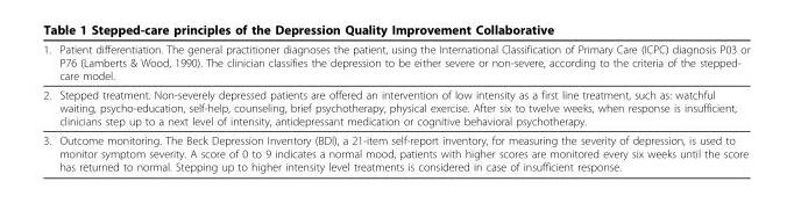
<table><thead><tr><td>1.</td><td>Patient differentiation. The general practitioner diagnoses the patient, using the International Classification of Primary Care (ICPC) diagnosis P03 or P76 (Lamberts &amp; Wood, 1990). The clinician classifies the depression to be either severe or non-severe, according to the criteria of the stepped- care model.</td></tr></thead><tbody><tr><td>2.</td><td>Stepped treatment. Non-severely depressed patients are offered an intervention of low intensity as a first line treatment, such as: watchful waiting, psycho-education, self-help, counseling, brief psychotherapy, physical exercise. After six to twelve weeks, when response is insufficient, clinicians step up to a next level of intensity, antidepressant medication or cognitive behavioral psychotherapy.</td></tr><tr><td>3.</td><td>Outcome monitoring. The Beck Depression Inventory (BDI), a 21-item self-report inventory, for measuring the severity of depression, is used to monitor symptom severity. A score of 0 to 9 indicates a normal mood, patients with higher scores are monitored every six weeks until the score has returned to normal. Stepping up to higher intensity level treatments is considered in case of insufficient response.</td></tr></tbody></table>